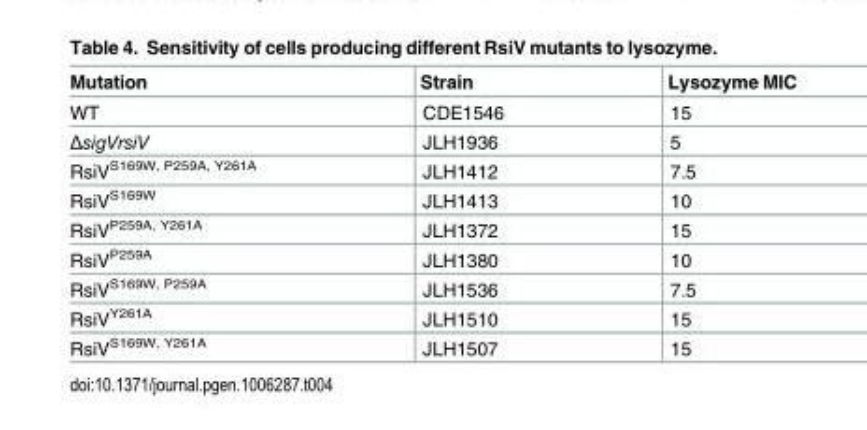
<table><thead><tr><td>Mutation</td><td>Strain</td><td>Lysozyme MIC</td></tr></thead><tbody><tr><td>WT</td><td>CDE1546</td><td>15</td></tr><tr><td>ΔsigVrsiV</td><td>JLH1936</td><td>5</td></tr><tr><td>RsiV<sup>S169W, P259A, Y261A</sup></td><td>JLH1412</td><td>7.5</td></tr><tr><td>RsiV<sup>S169W</sup></td><td>JLH1413</td><td>10</td></tr><tr><td>RsiV<sup>P259A, Y261A</sup></td><td>JLH1372</td><td>15</td></tr><tr><td>RsiV<sup>P259A</sup></td><td>JLH1380</td><td>10</td></tr><tr><td>RsiV<sup>S169W, P259A</sup></td><td>JLH1536</td><td>7.5</td></tr><tr><td>RsiV<sup>Y261A</sup></td><td>JLH1510</td><td>15</td></tr><tr><td>RsiV<sup>S169W, Y261A</sup></td><td>JLH1507</td><td>15</td></tr></tbody></table>